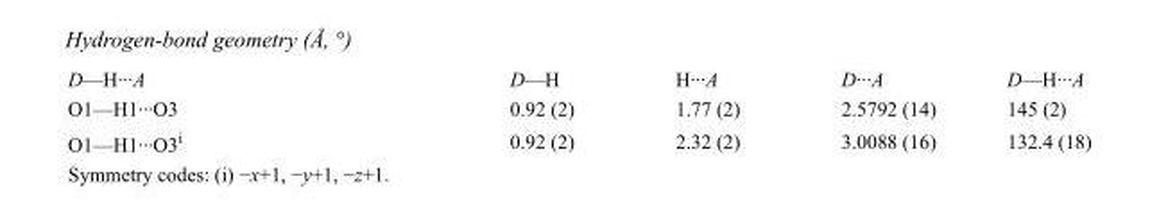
<table><tbody><tr><td>D—H···A</td><td>D—H</td><td>H···A</td><td>D···A</td><td>D—H···A</td></tr><tr><td>O1—H1···O3</td><td>0.92 (2)</td><td>1.77 (2)</td><td>2.5792 (14)</td><td>145 (2)</td></tr><tr><td>O1—H1···O3<sup>i</sup></td><td>0.92 (2)</td><td>2.32 (2)</td><td>3.0088 (16)</td><td>132.4 (18)</td></tr></tbody></table>